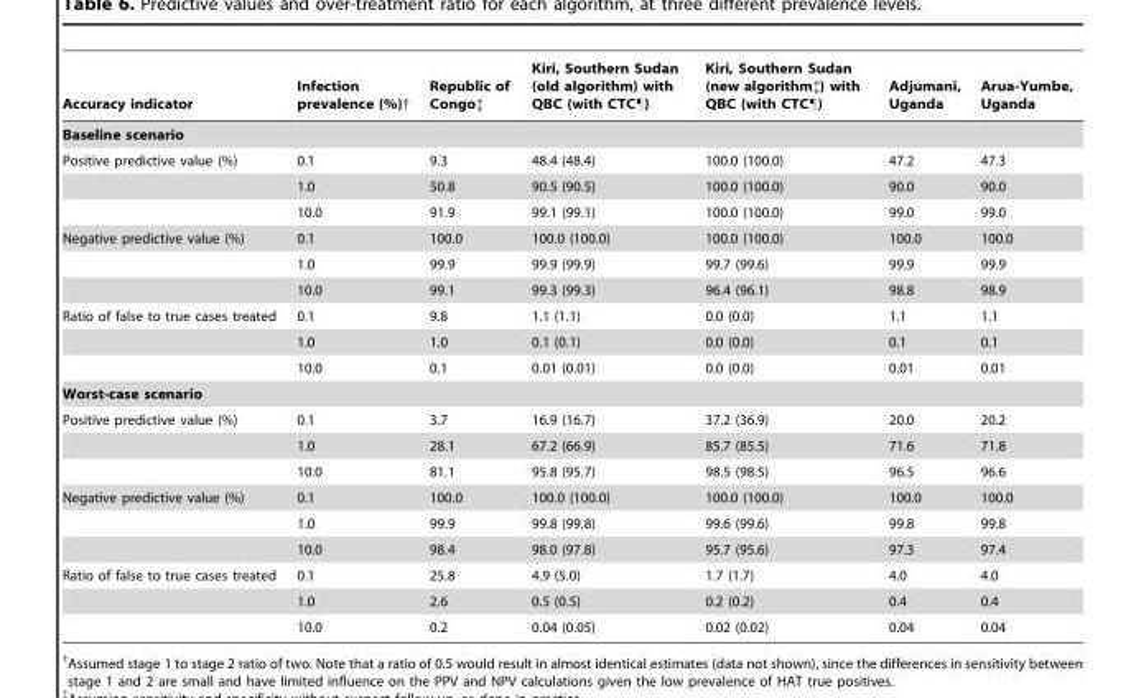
<table><thead><tr><td>Accuracy indicator</td><td>Infection prevalence (%)†</td><td>Republic of Congo‡</td><td>Kiri, Southern Sudan (old algorithm) with QBC (with CTC¶)</td><td>Kiri, Southern Sudan (new algorithm‡) with QBC (with CTC¶)</td><td>Adjumani, Uganda</td><td>Arua-Yumbe, Uganda</td></tr></thead><tbody><tr><td colspan="7">Baseline scenario</td></tr><tr><td rowspan="3">Positive predictive value (%)</td><td>0.1</td><td>9.3</td><td>48.4 (48.4)</td><td>100.0 (100.0)</td><td>47.2</td><td>47.3</td></tr><tr><td>1.0</td><td>50.8</td><td>90.5 (90.5)</td><td>100.0 (100.0)</td><td>90.0</td><td>90.0</td></tr><tr><td>10.0</td><td>91.9</td><td>99.1 (99.1)</td><td>100.0 (100.0)</td><td>99.0</td><td>99.0</td></tr><tr><td rowspan="3">Negative predictive value (%)</td><td>0.1</td><td>100.0</td><td>100.0 (100.0)</td><td>100.0 (100.0)</td><td>100.0</td><td>100.0</td></tr><tr><td>1.0</td><td>99.9</td><td>99.9 (99.9)</td><td>99.7 (99.6)</td><td>99.9</td><td>99.9</td></tr><tr><td>10.0</td><td>99.1</td><td>99.3 (99.3)</td><td>96.4 (96.1)</td><td>98.8</td><td>98.9</td></tr><tr><td rowspan="3">Ratio of false to true cases treated</td><td>0.1</td><td>9.8</td><td>1.1 (1.1)</td><td>0.0 (0.0)</td><td>1.1</td><td>1.1</td></tr><tr><td>1.0</td><td>1.0</td><td>0.1 (0.1)</td><td>0.0 (0.0)</td><td>0.1</td><td>0.1</td></tr><tr><td>10.0</td><td>0.1</td><td>0.01 (0.01)</td><td>0.0 (0.0)</td><td>0.01</td><td>0.01</td></tr><tr><td colspan="7">Worst-case scenario</td></tr><tr><td rowspan="3">Positive predictive value (%)</td><td>0.1</td><td>3.7</td><td>16.9 (16.7)</td><td>37.2 (36.9)</td><td>20.0</td><td>20.2</td></tr><tr><td>1.0</td><td>28.1</td><td>67.2 (66.9)</td><td>85.7 (85.5)</td><td>71.6</td><td>71.8</td></tr><tr><td>10.0</td><td>81.1</td><td>95.8 (95.7)</td><td>98.5 (98.5)</td><td>96.5</td><td>96.6</td></tr><tr><td rowspan="3">Negative predictive value (%)</td><td>0.1</td><td>100.0</td><td>100.0 (100.0)</td><td>100.0 (100.0)</td><td>100.0</td><td>100.0</td></tr><tr><td>1.0</td><td>99.9</td><td>99.8 (99.8)</td><td>99.6 (99.6)</td><td>99.8</td><td>99.8</td></tr><tr><td>10.0</td><td>98.4</td><td>98.0 (97.8)</td><td>95.7 (95.6)</td><td>97.3</td><td>97.4</td></tr><tr><td rowspan="3">Ratio of false to true cases treated</td><td>0.1</td><td>25.8</td><td>4.9 (5.0)</td><td>1.7 (1.7)</td><td>4.0</td><td>4.0</td></tr><tr><td>1.0</td><td>2.6</td><td>0.5 (0.5)</td><td>0.2 (0.2)</td><td>0.4</td><td>0.4</td></tr><tr><td>10.0</td><td>0.2</td><td>0.04 (0.05)</td><td>0.02 (0.02)</td><td>0.04</td><td>0.04</td></tr></tbody></table>